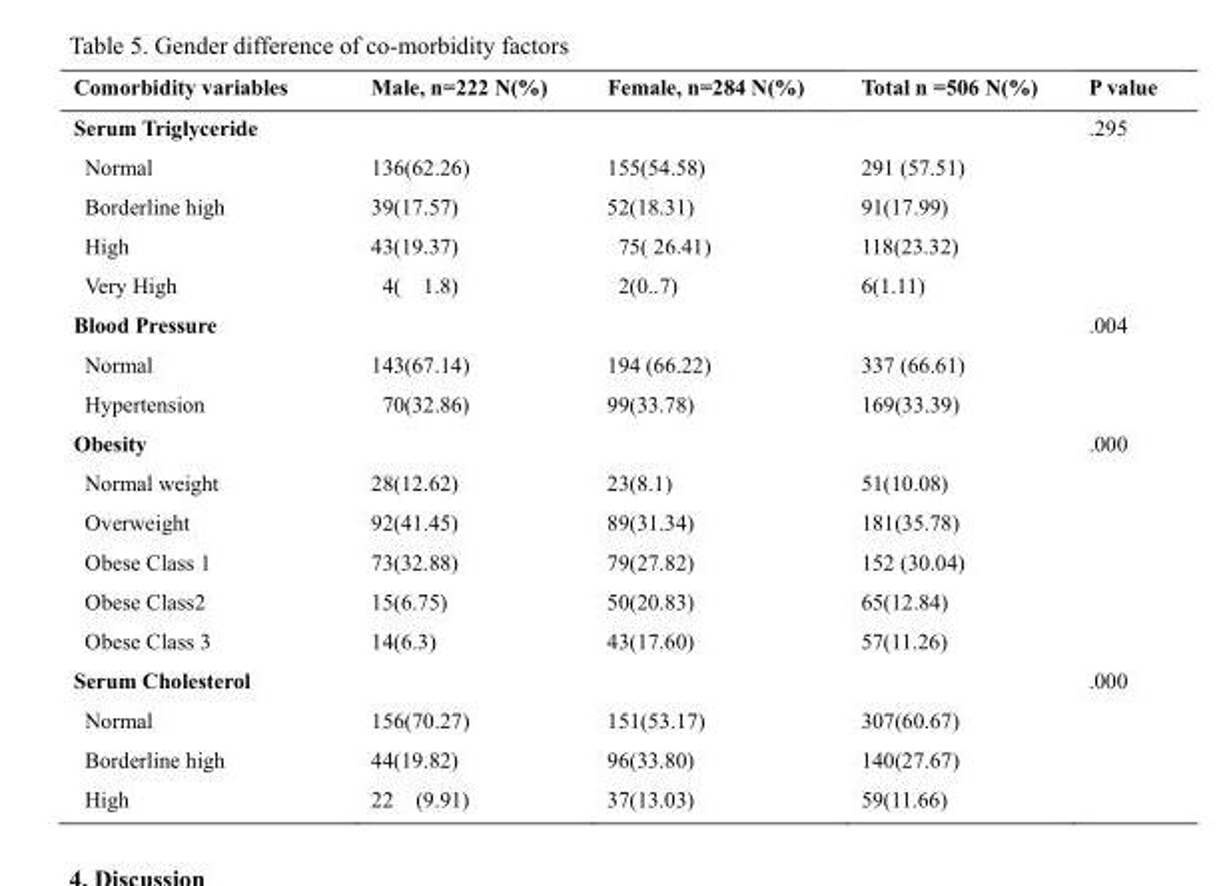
<table><thead><tr><td>Comorbidity variables</td><td>Male, n=222 N(%)</td><td>Female, n=284 N(%)</td><td>Total n =506 N(%)</td><td>P value</td></tr></thead><tbody><tr><td>Serum Triglyceride</td><td></td><td></td><td></td><td>.295</td></tr><tr><td>Normal</td><td>136(62.26)</td><td>155(54.58)</td><td>291 (57.51)</td><td></td></tr><tr><td>Borderline high</td><td>39(17.57)</td><td>52(18.31)</td><td>91(17.99)</td><td></td></tr><tr><td>High</td><td>43(19.37)</td><td>75( 26.41)</td><td>118(23.32)</td><td></td></tr><tr><td>Very High</td><td>4( 1.8)</td><td>2(0..7)</td><td>6(1.11)</td><td></td></tr><tr><td>Blood Pressure</td><td></td><td></td><td></td><td>.004</td></tr><tr><td>Normal</td><td>143(67.14)</td><td>194 (66.22)</td><td>337 (66.61)</td><td></td></tr><tr><td>Hypertension</td><td>70(32.86)</td><td>99(33.78)</td><td>169(33.39)</td><td></td></tr><tr><td>Obesity</td><td></td><td></td><td></td><td>.000</td></tr><tr><td>Normal weight</td><td>28(12.62)</td><td>23(8.1)</td><td>51(10.08)</td><td></td></tr><tr><td>Overweight</td><td>92(41.45)</td><td>89(31.34)</td><td>181(35.78)</td><td></td></tr><tr><td>Obese Class 1</td><td>73(32.88)</td><td>79(27.82)</td><td>152 (30.04)</td><td></td></tr><tr><td>Obese Class2</td><td>15(6.75)</td><td>50(20.83)</td><td>65(12.84)</td><td></td></tr><tr><td>Obese Class 3</td><td>14(6.3)</td><td>43(17.60)</td><td>57(11.26)</td><td></td></tr><tr><td>Serum Cholesterol</td><td></td><td></td><td></td><td>.000</td></tr><tr><td>Normal</td><td>156(70.27)</td><td>151(53.17)</td><td>307(60.67)</td><td></td></tr><tr><td>Borderline high</td><td>44(19.82)</td><td>96(33.80)</td><td>140(27.67)</td><td></td></tr><tr><td>High</td><td>22 (9.91)</td><td>37(13.03)</td><td>59(11.66)</td><td></td></tr></tbody></table>